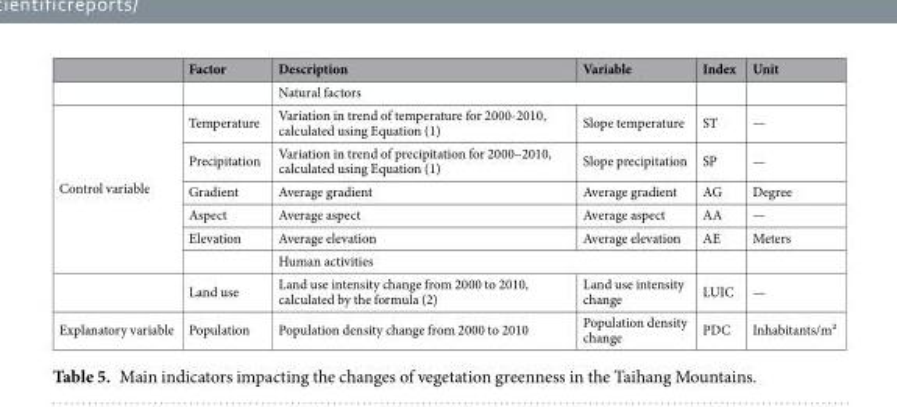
<table><thead><tr><td></td><td>Factor</td><td>Description</td><td>Variable</td><td>Index</td><td>Unit</td></tr></thead><tbody><tr><td></td><td></td><td colspan="2">Natural factors</td><td></td><td></td></tr><tr><td rowspan="7">Control variable</td><td>Temperature</td><td>Variation in trend of temperature for 2000-2010, calculated using Equation (1)</td><td>Slope temperature</td><td>ST</td><td>—</td></tr><tr><td>Precipitation</td><td>Variation in trend of precipitation for 2000–2010, calculated using Equation (1)</td><td>Slope precipitation</td><td>SP</td><td>—</td></tr><tr><td>Gradient</td><td>Average gradient</td><td>Average gradient</td><td>AG</td><td>Degree</td></tr><tr><td>Aspect</td><td>Average aspect</td><td>Average aspect</td><td>AA</td><td>—</td></tr><tr><td>Elevation</td><td>Average elevation</td><td>Average elevation</td><td>AE</td><td>Meters</td></tr><tr><td></td><td colspan="2">Human activities</td><td></td><td></td></tr><tr><td>Land use</td><td>Land use intensity change from 2000 to 2010, calculated by the formula (2)</td><td>Land use intensity change</td><td>LUIC</td><td>—</td></tr><tr><td>Explanatory variable</td><td>Population</td><td>Population density change from 2000 to 2010</td><td>Population density change</td><td>PDC</td><td>Inhabitants/m²</td></tr></tbody></table>